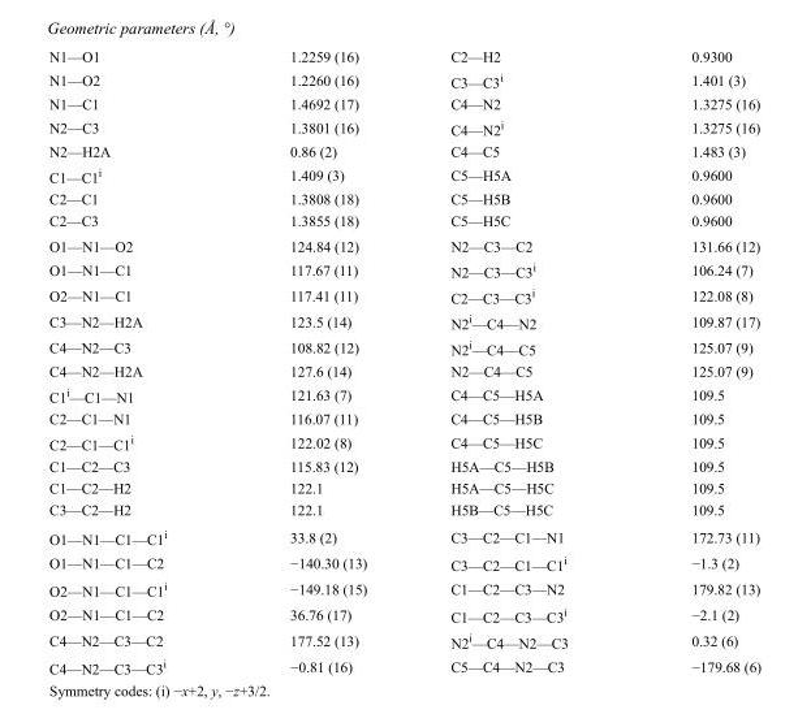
<table><tbody><tr><td>N1—O1</td><td>1.2259 (16)</td><td>C2—H2</td><td>0.9300</td></tr><tr><td>N1—O2</td><td>1.2260 (16)</td><td>C3—C3<sup>i</sup></td><td>1.401 (3)</td></tr><tr><td>N1—C1</td><td>1.4692 (17)</td><td>C4—N2</td><td>1.3275 (16)</td></tr><tr><td>N2—C3</td><td>1.3801 (16)</td><td>C4—N2<sup>i</sup></td><td>1.3275 (16)</td></tr><tr><td>N2—H2A</td><td>0.86 (2)</td><td>C4—C5</td><td>1.483 (3)</td></tr><tr><td>C1—C1<sup>i</sup></td><td>1.409 (3)</td><td>C5—H5A</td><td>0.9600</td></tr><tr><td>C2—C1</td><td>1.3808 (18)</td><td>C5—H5B</td><td>0.9600</td></tr><tr><td>C2—C3</td><td>1.3855 (18)</td><td>C5—H5C</td><td>0.9600</td></tr><tr><td>O1—N1—O2</td><td>124.84 (12)</td><td>N2—C3—C2</td><td>131.66 (12)</td></tr><tr><td>O1—N1—C1</td><td>117.67 (11)</td><td>N2—C3—C3<sup>i</sup></td><td>106.24 (7)</td></tr><tr><td>O2—N1—C1</td><td>117.41 (11)</td><td>C2—C3—C3<sup>i</sup></td><td>122.08 (8)</td></tr><tr><td>C3—N2—H2A</td><td>123.5 (14)</td><td>N2<sup>i</sup>—C4—N2</td><td>109.87 (17)</td></tr><tr><td>C4—N2—C3</td><td>108.82 (12)</td><td>N2<sup>i</sup>—C4—C5</td><td>125.07 (9)</td></tr><tr><td>C4—N2—H2A</td><td>127.6 (14)</td><td>N2—C4—C5</td><td>125.07 (9)</td></tr><tr><td>C1<sup>i</sup>—C1—N1</td><td>121.63 (7)</td><td>C4—C5—H5A</td><td>109.5</td></tr><tr><td>C2—C1—N1</td><td>116.07 (11)</td><td>C4—C5—H5B</td><td>109.5</td></tr><tr><td>C2—C1—C1<sup>i</sup></td><td>122.02 (8)</td><td>C4—C5—H5C</td><td>109.5</td></tr><tr><td>C1—C2—C3</td><td>115.83 (12)</td><td>H5A—C5—H5B</td><td>109.5</td></tr><tr><td>C1—C2—H2</td><td>122.1</td><td>H5A—C5—H5C</td><td>109.5</td></tr><tr><td>C3—C2—H2</td><td>122.1</td><td>H5B—C5—H5C</td><td>109.5</td></tr><tr><td>O1—N1—C1—C1<sup>i</sup></td><td>33.8 (2)</td><td>C3—C2—C1—N1</td><td>172.73 (11)</td></tr><tr><td>O1—N1—C1—C2</td><td>−140.30 (13)</td><td>C3—C2—C1—C1<sup>i</sup></td><td>−1.3 (2)</td></tr><tr><td>O2—N1—C1—C1<sup>i</sup></td><td>−149.18 (15)</td><td>C1—C2—C3—N2</td><td>179.82 (13)</td></tr><tr><td>O2—N1—C1—C2</td><td>36.76 (17)</td><td>C1—C2—C3—C3<sup>i</sup></td><td>−2.1 (2)</td></tr><tr><td>C4—N2—C3—C2</td><td>177.52 (13)</td><td>N2<sup>i</sup>—C4—N2—C3</td><td>0.32 (6)</td></tr><tr><td>C4—N2—C3—C3<sup>i</sup></td><td>−0.81 (16)</td><td>C5—C4—N2—C3</td><td>−179.68 (6)</td></tr></tbody></table>